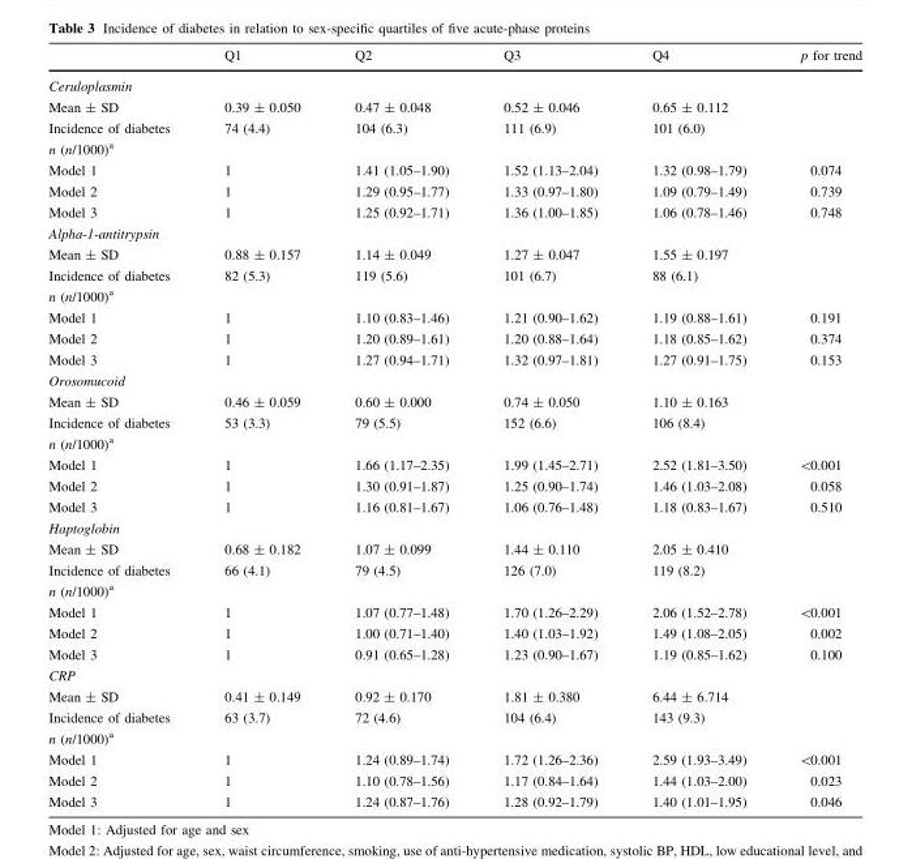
<table><thead><tr><td></td><td>Q1</td><td>Q2</td><td>Q3</td><td>Q4</td><td>p for trend</td></tr></thead><tbody><tr><td colspan="6">Ceruloplasmin</td></tr><tr><td>Mean ± SD</td><td>0.39 ± 0.050</td><td>0.47 ± 0.048</td><td>0.52 ± 0.046</td><td>0.65 ± 0.112</td><td></td></tr><tr><td>Incidence of diabetes n (n/1000)<sup>a</sup></td><td>74 (4.4)</td><td>104 (6.3)</td><td>111 (6.9)</td><td>101 (6.0)</td><td></td></tr><tr><td>Model 1</td><td>1</td><td>1.41 (1.05–1.90)</td><td>1.52 (1.13–2.04)</td><td>1.32 (0.98–1.79)</td><td>0.074</td></tr><tr><td>Model 2</td><td>1</td><td>1.29 (0.95–1.77)</td><td>1.33 (0.97–1.80)</td><td>1.09 (0.79–1.49)</td><td>0.739</td></tr><tr><td>Model 3</td><td>1</td><td>1.25 (0.92–1.71)</td><td>1.36 (1.00–1.85)</td><td>1.06 (0.78–1.46)</td><td>0.748</td></tr><tr><td colspan="6">Alpha-1-antitrypsin</td></tr><tr><td>Mean ± SD</td><td>0.88 ± 0.157</td><td>1.14 ± 0.049</td><td>1.27 ± 0.047</td><td>1.55 ± 0.197</td><td></td></tr><tr><td>Incidence of diabetes n (n/1000)<sup>a</sup></td><td>82 (5.3)</td><td>119 (5.6)</td><td>101 (6.7)</td><td>88 (6.1)</td><td></td></tr><tr><td>Model 1</td><td>1</td><td>1.10 (0.83–1.46)</td><td>1.21 (0.90–1.62)</td><td>1.19 (0.88–1.61)</td><td>0.191</td></tr><tr><td>Model 2</td><td>1</td><td>1.20 (0.89–1.61)</td><td>1.20 (0.88–1.64)</td><td>1.18 (0.85–1.62)</td><td>0.374</td></tr><tr><td>Model 3</td><td>1</td><td>1.27 (0.94–1.71)</td><td>1.32 (0.97–1.81)</td><td>1.27 (0.91–1.75)</td><td>0.153</td></tr><tr><td colspan="6">Orosomucoid</td></tr><tr><td>Mean ± SD</td><td>0.46 ± 0.059</td><td>0.60 ± 0.000</td><td>0.74 ± 0.050</td><td>1.10 ± 0.163</td><td></td></tr><tr><td>Incidence of diabetes n (n/1000)<sup>a</sup></td><td>53 (3.3)</td><td>79 (5.5)</td><td>152 (6.6)</td><td>106 (8.4)</td><td></td></tr><tr><td>Model 1</td><td>1</td><td>1.66 (1.17–2.35)</td><td>1.99 (1.45–2.71)</td><td>2.52 (1.81–3.50)</td><td>&lt;0.001</td></tr><tr><td>Model 2</td><td>1</td><td>1.30 (0.91–1.87)</td><td>1.25 (0.90–1.74)</td><td>1.46 (1.03–2.08)</td><td>0.058</td></tr><tr><td>Model 3</td><td>1</td><td>1.16 (0.81–1.67)</td><td>1.06 (0.76–1.48)</td><td>1.18 (0.83–1.67)</td><td>0.510</td></tr><tr><td colspan="6">Haptoglobin</td></tr><tr><td>Mean ± SD</td><td>0.68 ± 0.182</td><td>1.07 ± 0.099</td><td>1.44 ± 0.110</td><td>2.05 ± 0.410</td><td></td></tr><tr><td>Incidence of diabetes n (n/1000)<sup>a</sup></td><td>66 (4.1)</td><td>79 (4.5)</td><td>126 (7.0)</td><td>119 (8.2)</td><td></td></tr><tr><td>Model 1</td><td>1</td><td>1.07 (0.77–1.48)</td><td>1.70 (1.26–2.29)</td><td>2.06 (1.52–2.78)</td><td>&lt;0.001</td></tr><tr><td>Model 2</td><td>1</td><td>1.00 (0.71–1.40)</td><td>1.40 (1.03–1.92)</td><td>1.49 (1.08–2.05)</td><td>0.002</td></tr><tr><td>Model 3</td><td>1</td><td>0.91 (0.65–1.28)</td><td>1.23 (0.90–1.67)</td><td>1.19 (0.85–1.62)</td><td>0.100</td></tr><tr><td colspan="6">CRP</td></tr><tr><td>Mean ± SD</td><td>0.41 ± 0.149</td><td>0.92 ± 0.170</td><td>1.81 ± 0.380</td><td>6.44 ± 6.714</td><td></td></tr><tr><td>Incidence of diabetes n (n/1000)<sup>a</sup></td><td>63 (3.7)</td><td>72 (4.6)</td><td>104 (6.4)</td><td>143 (9.3)</td><td></td></tr><tr><td>Model 1</td><td>1</td><td>1.24 (0.89–1.74)</td><td>1.72 (1.26–2.36)</td><td>2.59 (1.93–3.49)</td><td>&lt;0.001</td></tr><tr><td>Model 2</td><td>1</td><td>1.10 (0.78–1.56)</td><td>1.17 (0.84–1.64)</td><td>1.44 (1.03–2.00)</td><td>0.023</td></tr><tr><td>Model 3</td><td>1</td><td>1.24 (0.87–1.76)</td><td>1.28 (0.92–1.79)</td><td>1.40 (1.01–1.95)</td><td>0.046</td></tr></tbody></table>